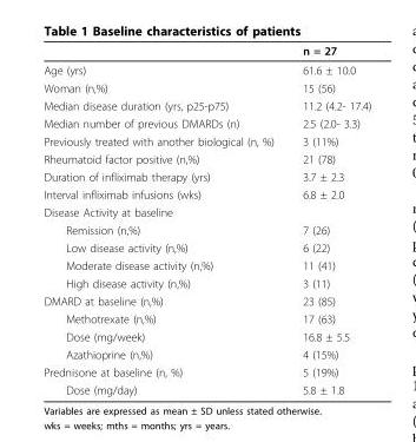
<table><thead><tr><td></td><td>n = 27</td></tr></thead><tbody><tr><td>Age (yrs)</td><td>61.6 ± 10.0</td></tr><tr><td>Woman (n,%)</td><td>15 (56)</td></tr><tr><td>Median disease duration (yrs, p25-p75)</td><td>11.2 (4.2- 17.4)</td></tr><tr><td>Median number of previous DMARDs (n)</td><td>2.5 (2.0- 3.3)</td></tr><tr><td>Previously treated with another biological (n, %)</td><td>3 (11%)</td></tr><tr><td>Rheumatoid factor positive (n,%)</td><td>21 (78)</td></tr><tr><td>Duration of infliximab therapy (yrs)</td><td>3.7 ± 2.3</td></tr><tr><td>Interval infliximab infusions (wks)</td><td>6.8 ± 2.0</td></tr><tr><td colspan="2">Disease Activity at baseline</td></tr><tr><td>Remission (n,%)</td><td>7 (26)</td></tr><tr><td>Low disease activity (n,%)</td><td>6 (22)</td></tr><tr><td>Moderate disease activity (n,%)</td><td>11 (41)</td></tr><tr><td>High disease activity (n,%)</td><td>3 (11)</td></tr><tr><td>DMARD at baseline (n,%)</td><td>23 (85)</td></tr><tr><td>Methotrexate (n,%)</td><td>17 (63)</td></tr><tr><td>Dose (mg/week)</td><td>16.8 ± 5.5</td></tr><tr><td>Azathioprine (n,%)</td><td>4 (15%)</td></tr><tr><td>Prednisone at baseline (n, %)</td><td>5 (19%)</td></tr><tr><td>Dose (mg/day)</td><td>5.8 ± 1.8</td></tr></tbody></table>